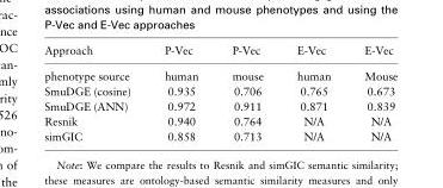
<table><thead><tr><td>Approach</td><td>P-Vec</td><td>P-Vec</td><td>E-Vec</td><td>E-Vec</td></tr></thead><tbody><tr><td>phenotype source</td><td>human</td><td>mouse</td><td>human</td><td>Mouse</td></tr><tr><td>SmuDGE (cosine)</td><td>0.935</td><td>0.706</td><td>0.765</td><td>0.673</td></tr><tr><td>SmuDGE (ANN)</td><td>0.972</td><td>0.911</td><td>0.871</td><td>0.839</td></tr><tr><td>Resnik</td><td>0.940</td><td>0.764</td><td>N/A</td><td>N/A</td></tr><tr><td>simGIC</td><td>0.858</td><td>0.713</td><td>N/A</td><td>N/A</td></tr></tbody></table>